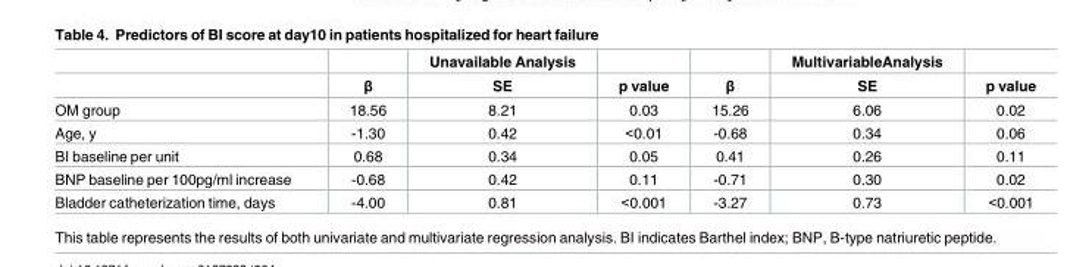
<table><thead><tr><td rowspan="2"></td><td rowspan="2">β</td><td rowspan="2">Unavailable Analysis SE</td><td rowspan="2">p value</td><td rowspan="2">β</td><td rowspan="2">MultivariableAnalysis SE</td><td rowspan="2">p value</td></tr><tr></tr></thead><tbody><tr><td>OM group</td><td>18.56</td><td>8.21</td><td>0.03</td><td>15.26</td><td>6.06</td><td>0.02</td></tr><tr><td>Age, y</td><td>-1.30</td><td>0.42</td><td>&lt;0.01</td><td>-0.68</td><td>0.34</td><td>0.06</td></tr><tr><td>BI baseline per unit</td><td>0.68</td><td>0.34</td><td>0.05</td><td>0.41</td><td>0.26</td><td>0.11</td></tr><tr><td>BNP baseline per 100pg/ml increase</td><td>-0.68</td><td>0.42</td><td>0.11</td><td>-0.71</td><td>0.30</td><td>0.02</td></tr><tr><td>Bladder catheterization time, days</td><td>-4.00</td><td>0.81</td><td>&lt;0.001</td><td>-3.27</td><td>0.73</td><td>&lt;0.001</td></tr></tbody></table>